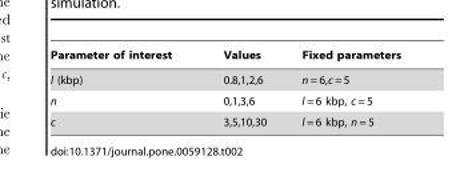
<table><thead><tr><td>Parameter of interest</td><td>Values</td><td>Fixed parameters</td></tr></thead><tbody><tr><td>l (kbp)</td><td>0.8,1,2,6</td><td>n = 6,c = 5</td></tr><tr><td>n</td><td>0,1,3,6</td><td>l = 6 kbp, c = 5</td></tr><tr><td>c</td><td>3,5,10,30</td><td>l = 6 kbp, n = 5</td></tr></tbody></table>